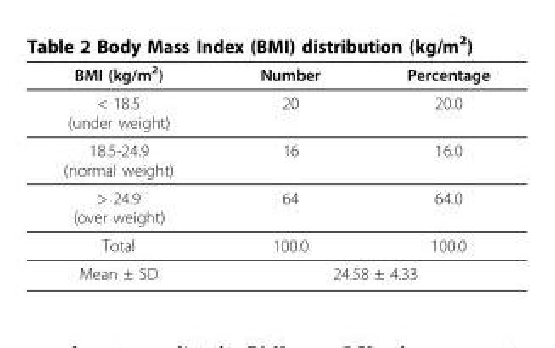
<table><thead><tr><td>BMI (kg/m<sup>2</sup>)</td><td>Number</td><td>Percentage</td></tr></thead><tbody><tr><td>&lt; 18.5 (under weight)</td><td>20</td><td>20.0</td></tr><tr><td>18.5-24.9 (normal weight)</td><td>16</td><td>16.0</td></tr><tr><td>&gt; 24.9 (over weight)</td><td>64</td><td>64.0</td></tr><tr><td>Total</td><td>100.0</td><td>100.0</td></tr><tr><td>Mean ± SD</td><td colspan="2">24.58 ± 4.33</td></tr></tbody></table>